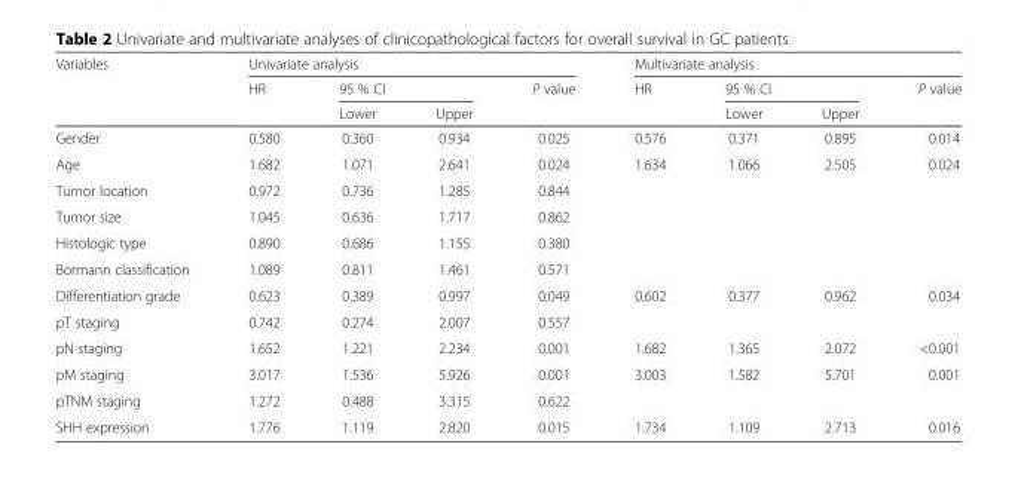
<table><thead><tr><td rowspan="3">Variables</td><td colspan="4">Univariate analysis</td><td colspan="4">Multivariate analysis</td></tr><tr><td rowspan="2">HR</td><td colspan="2">95 % CI</td><td rowspan="2">P value</td><td rowspan="2">HR</td><td colspan="2">95 % CI</td><td rowspan="2">P value</td></tr><tr><td>Lower</td><td>Upper</td><td>Lower</td><td>Upper</td></tr></thead><tbody><tr><td>Gender</td><td>0.580</td><td>0.360</td><td>0.934</td><td>0.025</td><td>0.576</td><td>0.371</td><td>0.895</td><td>0.014</td></tr><tr><td>Age</td><td>1.682</td><td>1.071</td><td>2.641</td><td>0.024</td><td>1.634</td><td>1.066</td><td>2.505</td><td>0.024</td></tr><tr><td>Tumor location</td><td>0.972</td><td>0.736</td><td>1.285</td><td>0.844</td><td></td><td></td><td></td><td></td></tr><tr><td>Tumor size</td><td>1.045</td><td>0.636</td><td>1.717</td><td>0.862</td><td></td><td></td><td></td><td></td></tr><tr><td>Histologic type</td><td>0.890</td><td>0.686</td><td>1.155</td><td>0.380</td><td></td><td></td><td></td><td></td></tr><tr><td>Bormann classification</td><td>1.089</td><td>0.811</td><td>1.461</td><td>0.571</td><td></td><td></td><td></td><td></td></tr><tr><td>Differentiation grade</td><td>0.623</td><td>0.389</td><td>0.997</td><td>0.049</td><td>0.602</td><td>0.377</td><td>0.962</td><td>0.034</td></tr><tr><td>pT staging</td><td>0.742</td><td>0.274</td><td>2.007</td><td>0.557</td><td></td><td></td><td></td><td></td></tr><tr><td>pN staging</td><td>1.652</td><td>1.221</td><td>2.234</td><td>0.001</td><td>1.682</td><td>1.365</td><td>2.072</td><td>&lt;0.001</td></tr><tr><td>pM staging</td><td>3.017</td><td>1.536</td><td>5.926</td><td>0.001</td><td>3.003</td><td>1.582</td><td>5.701</td><td>0.001</td></tr><tr><td>pTNM staging</td><td>1.272</td><td>0.488</td><td>3.315</td><td>0.622</td><td></td><td></td><td></td><td></td></tr><tr><td>SHH expression</td><td>1.776</td><td>1.119</td><td>2.820</td><td>0.015</td><td>1.734</td><td>1.109</td><td>2.713</td><td>0.016</td></tr></tbody></table>